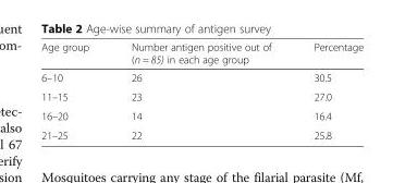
<table><thead><tr><td>Age group</td><td>Number antigen positive out of (n = 85) in each age group</td><td>Percentage</td></tr></thead><tbody><tr><td>6–10</td><td>26</td><td>30.5</td></tr><tr><td>11–15</td><td>23</td><td>27.0</td></tr><tr><td>16–20</td><td>14</td><td>16.4</td></tr><tr><td>21–25</td><td>22</td><td>25.8</td></tr></tbody></table>